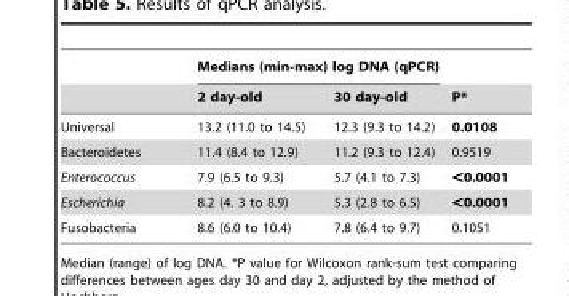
<table><thead><tr><td rowspan="2"></td><td colspan="2">Medians (min-max) log DNA (qPCR)</td><td rowspan="2">P*</td></tr><tr><td>2 day-old</td><td>30 day-old</td></tr></thead><tbody><tr><td>Universal</td><td>13.2 (11.0 to 14.5)</td><td>12.3 (9.3 to 14.2)</td><td>0.0108</td></tr><tr><td>Bacteroidetes</td><td>11.4 (8.4 to 12.9)</td><td>11.2 (9.3 to 12.4)</td><td>0.9519</td></tr><tr><td>Enterococcus</td><td>7.9 (6.5 to 9.3)</td><td>5.7 (4.1 to 7.3)</td><td>&lt;0.0001</td></tr><tr><td>Escherichia</td><td>8.2 (4. 3 to 8.9)</td><td>5.3 (2.8 to 6.5)</td><td>&lt;0.0001</td></tr><tr><td>Fusobacteria</td><td>8.6 (6.0 to 10.4)</td><td>7.8 (6.4 to 9.7)</td><td>0.1051</td></tr></tbody></table>